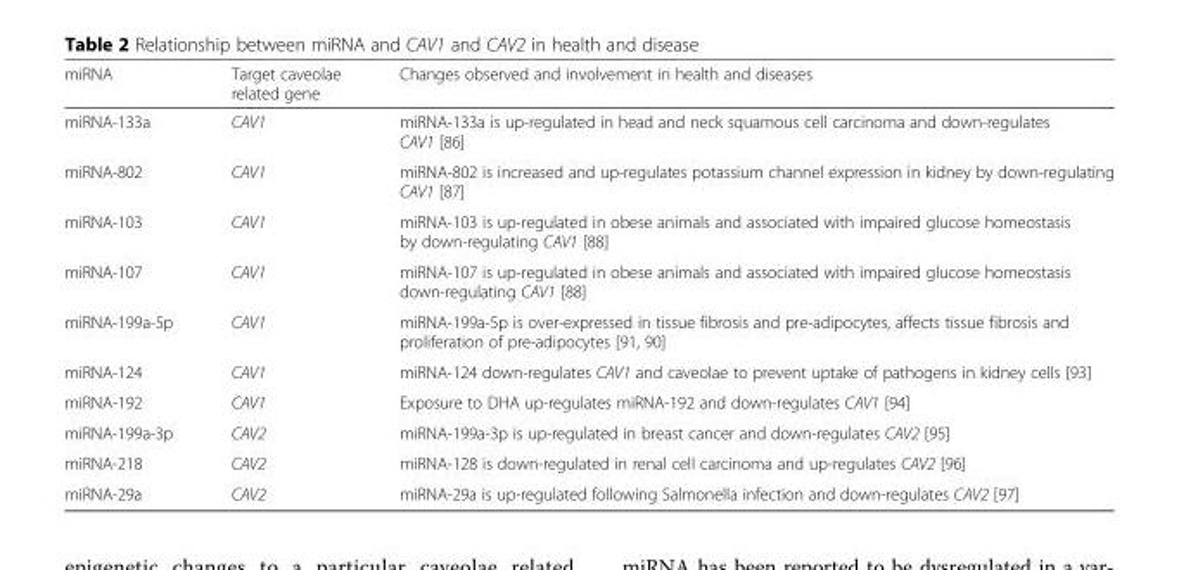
<table><thead><tr><td>miRNA</td><td>Target caveolae related gene</td><td>Changes observed and involvement in health and diseases</td></tr></thead><tbody><tr><td>miRNA-133a</td><td>CAV1</td><td>miRNA-133a is up-regulated in head and neck squamous cell carcinoma and down-regulates CAV1 [86]</td></tr><tr><td>miRNA-802</td><td>CAV1</td><td>miRNA-802 is increased and up-regulates potassium channel expression in kidney by down-regulating CAV1 [87]</td></tr><tr><td>miRNA-103</td><td>CAV1</td><td>miRNA-103 is up-regulated in obese animals and associated with impaired glucose homeostasis by down-regulating CAV1 [88]</td></tr><tr><td>miRNA-107</td><td>CAV1</td><td>miRNA-107 is up-regulated in obese animals and associated with impaired glucose homeostasis down-regulating CAV1 [88]</td></tr><tr><td>miRNA-199a-5p</td><td>CAV1</td><td>miRNA-199a-5p is over-expressed in tissue fibrosis and pre-adipocytes, affects tissue fibrosis and proliferation of pre-adipocytes [91, 90]</td></tr><tr><td>miRNA-124</td><td>CAV1</td><td>miRNA-124 down-regulates CAV1 and caveolae to prevent uptake of pathogens in kidney cells [93]</td></tr><tr><td>miRNA-192</td><td>CAV1</td><td>Exposure to DHA up-regulates miRNA-192 and down-regulates CAV1 [94]</td></tr><tr><td>miRNA-199a-3p</td><td>CAV2</td><td>miRNA-199a-3p is up-regulated in breast cancer and down-regulates CAV2 [95]</td></tr><tr><td>miRNA-218</td><td>CAV2</td><td>miRNA-128 is down-regulated in renal cell carcinoma and up-regulates CAV2 [96]</td></tr><tr><td>miRNA-29a</td><td>CAV2</td><td>miRNA-29a is up-regulated following Salmonella infection and down-regulates CAV2 [97]</td></tr></tbody></table>